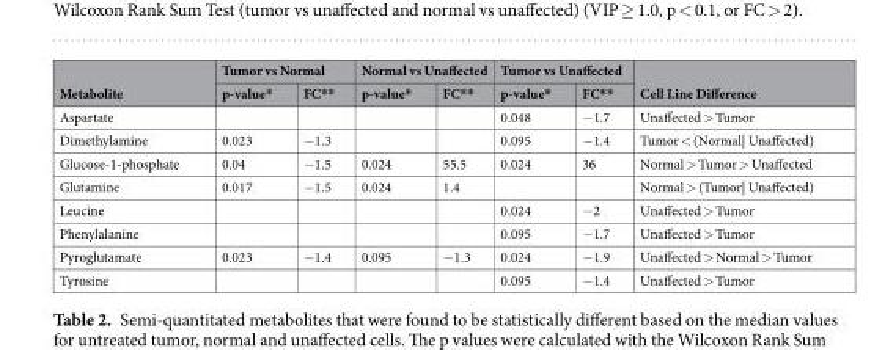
<table><thead><tr><td rowspan="2">Metabolite</td><td colspan="2">Tumor vs Normal</td><td colspan="2">Normal vs Unaffected</td><td colspan="2">Tumor vs Unaffected</td><td rowspan="2">Cell Line Difference</td></tr><tr><td>p-value*</td><td>FC**</td><td>p-value*</td><td>FC**</td><td>p-value*</td><td>FC**</td></tr></thead><tbody><tr><td>Aspartate</td><td></td><td></td><td></td><td></td><td>0.048</td><td>−1.7</td><td>Unaffected &gt; Tumor</td></tr><tr><td>Dimethylamine</td><td>0.023</td><td>−1.3</td><td></td><td></td><td>0.095</td><td>−1.4</td><td>Tumor &lt; (Normal| Unaffected)</td></tr><tr><td>Glucose-1-phosphate</td><td>0.04</td><td>−1.5</td><td>0.024</td><td>55.5</td><td>0.024</td><td>36</td><td>Normal &gt; Tumor &gt; Unaffected</td></tr><tr><td>Glutamine</td><td>0.017</td><td>−1.5</td><td>0.024</td><td>1.4</td><td></td><td></td><td>Normal &gt; (Tumor| Unaffected)</td></tr><tr><td>Leucine</td><td></td><td></td><td></td><td></td><td>0.024</td><td>−2</td><td>Unaffected &gt; Tumor</td></tr><tr><td>Phenylalanine</td><td></td><td></td><td></td><td></td><td>0.095</td><td>−1.7</td><td>Unaffected &gt; Tumor</td></tr><tr><td>Pyroglutamate</td><td>0.023</td><td>−1.4</td><td>0.095</td><td>−1.3</td><td>0.024</td><td>−1.9</td><td>Unaffected &gt; Normal &gt; Tumor</td></tr><tr><td>Tyrosine</td><td></td><td></td><td></td><td></td><td>0.095</td><td>−1.4</td><td>Unaffected &gt; Tumor</td></tr></tbody></table>